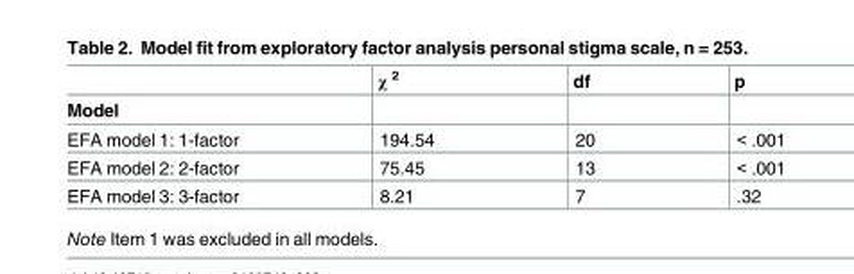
<table><thead><tr><td rowspan="2">Model</td><td rowspan="2">χ <sup>2</sup></td><td rowspan="2">df</td><td rowspan="2">p</td></tr><tr></tr></thead><tbody><tr><td>EFA model 1: 1-factor</td><td>194.54</td><td>20</td><td>&lt; .001</td></tr><tr><td>EFA model 2: 2-factor</td><td>75.45</td><td>13</td><td>&lt; .001</td></tr><tr><td>EFA model 3: 3-factor</td><td>8.21</td><td>7</td><td>.32</td></tr></tbody></table>